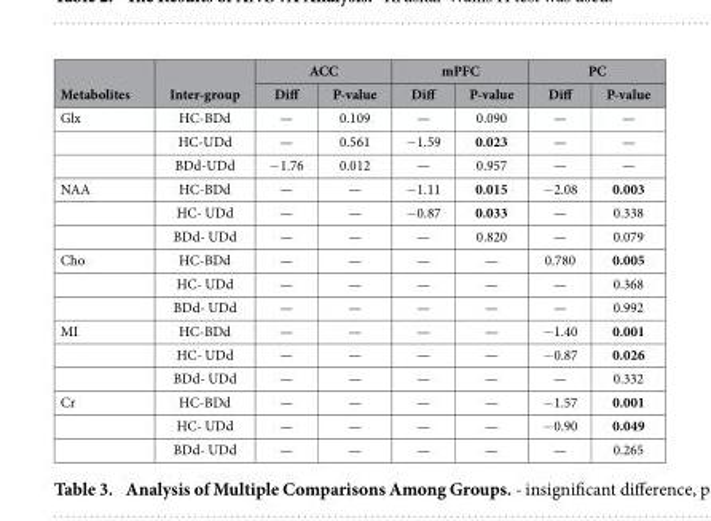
<table><thead><tr><td rowspan="2">Metabolites</td><td rowspan="2">Inter-group</td><td colspan="2">ACC</td><td colspan="2">mPFC</td><td colspan="2">PC</td></tr><tr><td>Diff</td><td>P-value</td><td>Diff</td><td>P-value</td><td>Diff</td><td>P-value</td></tr></thead><tbody><tr><td rowspan="3">Glx</td><td>HC-BDd</td><td>—</td><td>0.109</td><td>—</td><td>0.090</td><td>—</td><td>—</td></tr><tr><td>HC-UDd</td><td>—</td><td>0.561</td><td>− 1.59</td><td>0.023</td><td>—</td><td>—</td></tr><tr><td>BDd-UDd</td><td>− 1.76</td><td>0.012</td><td>—</td><td>0.957</td><td>—</td><td>—</td></tr><tr><td rowspan="3">NAA</td><td>HC-BDd</td><td>—</td><td>—</td><td>− 1.11</td><td>0.015</td><td>− 2.08</td><td>0.003</td></tr><tr><td>HC- UDd</td><td>—</td><td>—</td><td>− 0.87</td><td>0.033</td><td>—</td><td>0.338</td></tr><tr><td>BDd- UDd</td><td>—</td><td>—</td><td>—</td><td>0.820</td><td>—</td><td>0.079</td></tr><tr><td rowspan="3">Cho</td><td>HC-BDd</td><td>—</td><td>—</td><td>—</td><td>—</td><td>0.780</td><td>0.005</td></tr><tr><td>HC- UDd</td><td>—</td><td>—</td><td>—</td><td>—</td><td>—</td><td>0.368</td></tr><tr><td>BDd- UDd</td><td>—</td><td>—</td><td>—</td><td>—</td><td>—</td><td>0.992</td></tr><tr><td rowspan="3">MI</td><td>HC-BDd</td><td>—</td><td>—</td><td>—</td><td>—</td><td>− 1.40</td><td>0.001</td></tr><tr><td>HC- UDd</td><td>—</td><td>—</td><td>—</td><td>—</td><td>− 0.87</td><td>0.026</td></tr><tr><td>BDd- UDd</td><td>—</td><td>—</td><td>—</td><td>—</td><td>—</td><td>0.332</td></tr><tr><td rowspan="3">Cr</td><td>HC-BDd</td><td>—</td><td>—</td><td>—</td><td>—</td><td>− 1.57</td><td>0.001</td></tr><tr><td>HC- UDd</td><td>—</td><td>—</td><td>—</td><td>—</td><td>− 0.90</td><td>0.049</td></tr><tr><td>BDd- UDd</td><td>—</td><td>—</td><td>—</td><td>—</td><td>—</td><td>0.265</td></tr></tbody></table>